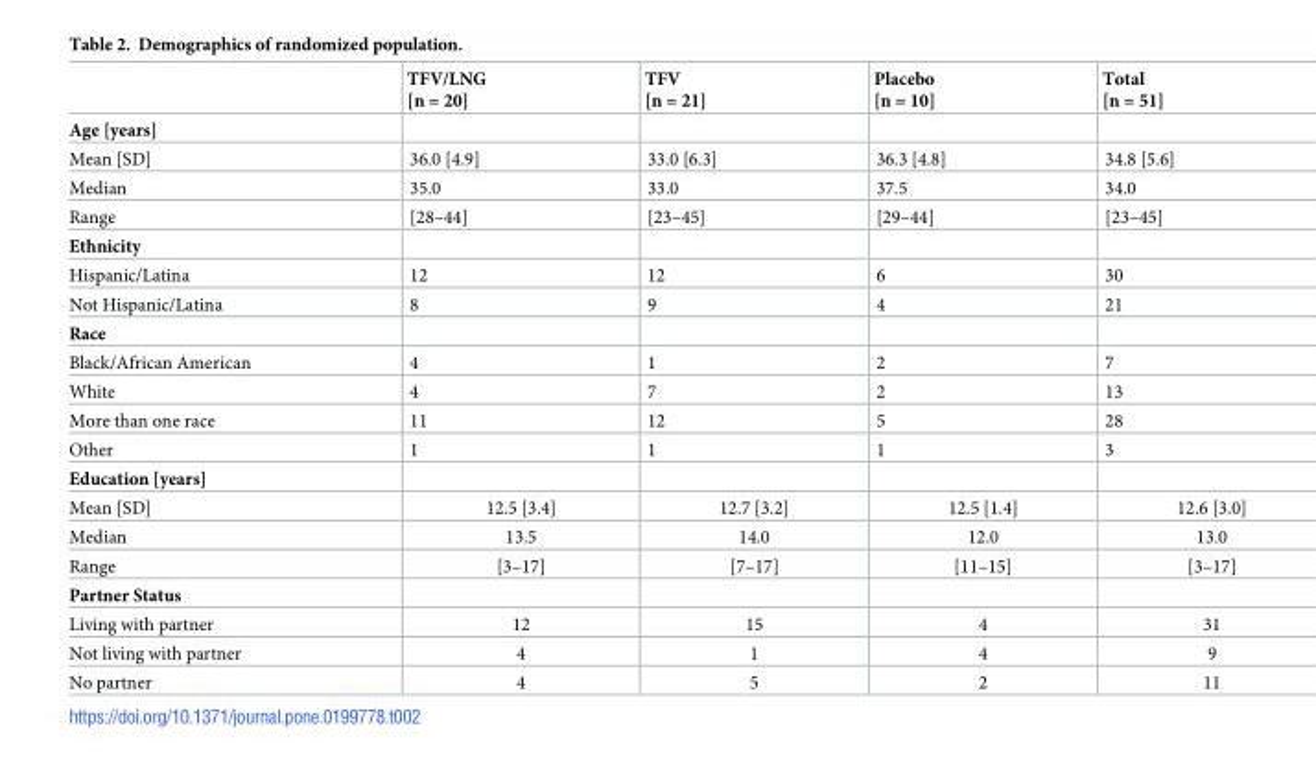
<table><thead><tr><td></td><td>TFV/LNG [n = 20]</td><td>TFV [n = 21]</td><td>Placebo [n = 10]</td><td>Total [n = 51]</td></tr></thead><tbody><tr><td colspan="5">Age [years]</td></tr><tr><td>Mean [SD]</td><td>36.0 [4.9]</td><td>33.0 [6.3]</td><td>36.3 [4.8]</td><td>34.8 [5.6]</td></tr><tr><td>Median</td><td>35.0</td><td>33.0</td><td>37.5</td><td>34.0</td></tr><tr><td>Range</td><td>[28–44]</td><td>[23–45]</td><td>[29–44]</td><td>[23–45]</td></tr><tr><td colspan="5">Ethnicity</td></tr><tr><td>Hispanic/Latina</td><td>12</td><td>12</td><td>6</td><td>30</td></tr><tr><td>Not Hispanic/Latina</td><td>8</td><td>9</td><td>4</td><td>21</td></tr><tr><td colspan="5">Race</td></tr><tr><td>Black/African American</td><td>4</td><td>1</td><td>2</td><td>7</td></tr><tr><td>White</td><td>4</td><td>7</td><td>2</td><td>13</td></tr><tr><td>More than one race</td><td>11</td><td>12</td><td>5</td><td>28</td></tr><tr><td>Other</td><td>1</td><td>1</td><td>1</td><td>3</td></tr><tr><td colspan="5">Education [years]</td></tr><tr><td>Mean [SD]</td><td>12.5 [3.4]</td><td>12.7 [3.2]</td><td>12.5 [1.4]</td><td>12.6 [3.0]</td></tr><tr><td>Median</td><td>13.5</td><td>14.0</td><td>12.0</td><td>13.0</td></tr><tr><td>Range</td><td>[3–17]</td><td>[7–17]</td><td>[11–15]</td><td>[3–17]</td></tr><tr><td colspan="5">Partner Status</td></tr><tr><td>Living with partner</td><td>12</td><td>15</td><td>4</td><td>31</td></tr><tr><td>Not living with partner</td><td>4</td><td>1</td><td>4</td><td>9</td></tr><tr><td>No partner</td><td>4</td><td>5</td><td>2</td><td>11</td></tr></tbody></table>